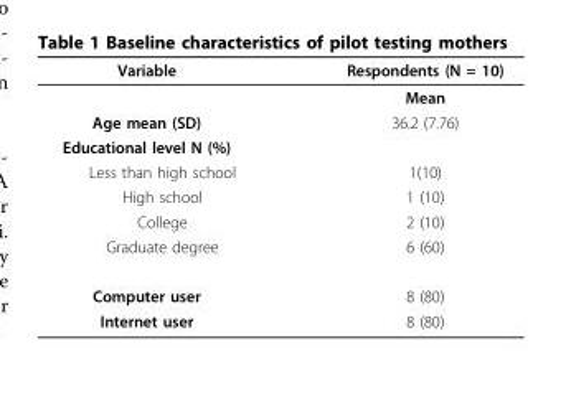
<table><thead><tr><td>Variable</td><td>Respondents (N = 10)</td></tr></thead><tbody><tr><td></td><td>Mean</td></tr><tr><td>Age mean (SD)</td><td>36.2 (7.76)</td></tr><tr><td colspan="2">Educational level N (%)</td></tr><tr><td>Less than high school</td><td>1(10)</td></tr><tr><td>High school</td><td>1 (10)</td></tr><tr><td>College</td><td>2 (10)</td></tr><tr><td>Graduate degree</td><td>6 (60)</td></tr><tr><td>Computer user</td><td>8 (80)</td></tr><tr><td>Internet user</td><td>8 (80)</td></tr></tbody></table>